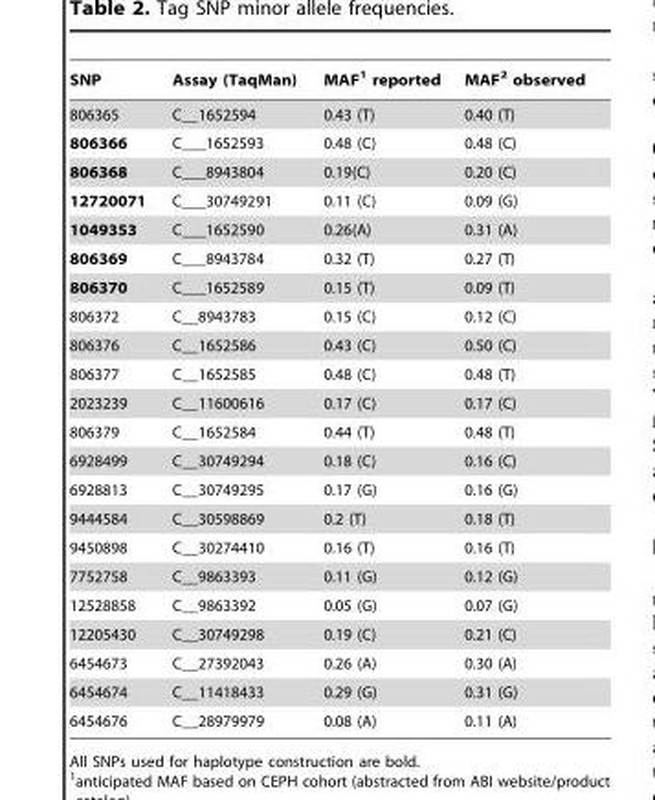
<table><thead><tr><td>SNP</td><td>Assay (TaqMan)</td><td>MAF<sup>1</sup> reported</td><td>MAF<sup>2</sup> observed</td></tr></thead><tbody><tr><td>806365</td><td>C__1652594</td><td>0.43 (T)</td><td>0.40 (T)</td></tr><tr><td>806366</td><td>C___1652593</td><td>0.48 (C)</td><td>0.48 (C)</td></tr><tr><td>806368</td><td>C___8943804</td><td>0.19(C)</td><td>0.20 (C)</td></tr><tr><td>12720071</td><td>C___30749291</td><td>0.11 (C)</td><td>0.09 (G)</td></tr><tr><td>1049353</td><td>C___1652590</td><td>0.26(A)</td><td>0.31 (A)</td></tr><tr><td>806369</td><td>C___8943784</td><td>0.32 (T)</td><td>0.27 (T)</td></tr><tr><td>806370</td><td>C___1652589</td><td>0.15 (T)</td><td>0.09 (T)</td></tr><tr><td>806372</td><td>C__8943783</td><td>0.15 (C)</td><td>0.12 (C)</td></tr><tr><td>806376</td><td>C__1652586</td><td>0.43 (C)</td><td>0.50 (C)</td></tr><tr><td>806377</td><td>C__1652585</td><td>0.48 (C)</td><td>0.48 (T)</td></tr><tr><td>2023239</td><td>C__11600616</td><td>0.17 (C)</td><td>0.17 (C)</td></tr><tr><td>806379</td><td>C__1652584</td><td>0.44 (T)</td><td>0.48 (T)</td></tr><tr><td>6928499</td><td>C__30749294</td><td>0.18 (C)</td><td>0.16 (C)</td></tr><tr><td>6928813</td><td>C__30749295</td><td>0.17 (G)</td><td>0.16 (G)</td></tr><tr><td>9444584</td><td>C__30598869</td><td>0.2 (T)</td><td>0.18 (T)</td></tr><tr><td>9450898</td><td>C__30274410</td><td>0.16 (T)</td><td>0.16 (T)</td></tr><tr><td>7752758</td><td>C__9863393</td><td>0.11 (G)</td><td>0.12 (G)</td></tr><tr><td>12528858</td><td>C__9863392</td><td>0.05 (G)</td><td>0.07 (G)</td></tr><tr><td>12205430</td><td>C__30749298</td><td>0.19 (C)</td><td>0.21 (C)</td></tr><tr><td>6454673</td><td>C__27392043</td><td>0.26 (A)</td><td>0.30 (A)</td></tr><tr><td>6454674</td><td>C__11418433</td><td>0.29 (G)</td><td>0.31 (G)</td></tr><tr><td>6454676</td><td>C__28979979</td><td>0.08 (A)</td><td>0.11 (A)</td></tr></tbody></table>